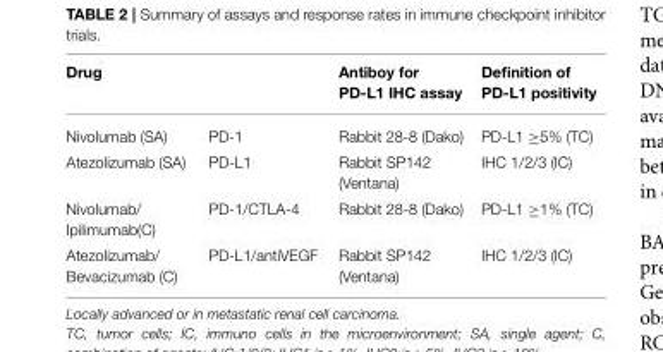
<table><thead><tr><td>Drug</td><td></td><td>Antiboy for PD-L1 IHC assay</td><td>Definition of PD-L1 positivity</td></tr></thead><tbody><tr><td>Nivolumab (SA)</td><td>PD-1</td><td>Rabbit 28-8 (Dako)</td><td>PD-L1 ≥5% (TC)</td></tr><tr><td>Atezolizumab (SA)</td><td>PD-L1</td><td>Rabbit SP142 (Ventana)</td><td>IHC 1/2/3 (IC)</td></tr><tr><td>Nivolumab/ Ipilimumab(C)</td><td>PD-1/CTLA-4</td><td>Rabbit 28-8 (Dako)</td><td>PD-L1 ≥1% (TC)</td></tr><tr><td>Atezolizumab/ Bevacizumab (C)</td><td>PD-L1/antiVEGF</td><td>Rabbit SP142 (Ventana)</td><td>IHC 1/2/3 (IC)</td></tr></tbody></table>